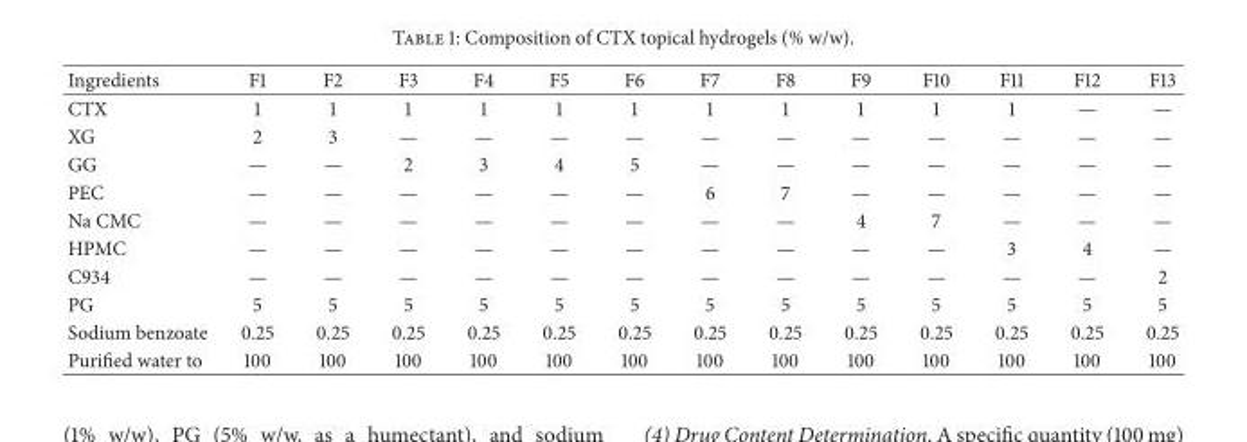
<table><thead><tr><td>Ingredients</td><td>F1</td><td>F2</td><td>F3</td><td>F4</td><td>F5</td><td>F6</td><td>F7</td><td>F8</td><td>F9</td><td>F10</td><td>F11</td><td>F12</td><td>F13</td></tr></thead><tbody><tr><td>CTX</td><td>1</td><td>1</td><td>1</td><td>1</td><td>1</td><td>1</td><td>1</td><td>1</td><td>1</td><td>1</td><td>1</td><td>—</td><td>—</td></tr><tr><td>XG</td><td>2</td><td>3</td><td>—</td><td>—</td><td>—</td><td>—</td><td>—</td><td>—</td><td>—</td><td>—</td><td>—</td><td>—</td><td>—</td></tr><tr><td>GG</td><td>—</td><td>—</td><td>2</td><td>3</td><td>4</td><td>5</td><td>—</td><td>—</td><td>—</td><td>—</td><td>—</td><td>—</td><td>—</td></tr><tr><td>PEC</td><td>—</td><td>—</td><td>—</td><td>—</td><td>—</td><td>—</td><td>6</td><td>7</td><td>—</td><td>—</td><td>—</td><td>—</td><td>—</td></tr><tr><td>Na CMC</td><td>—</td><td>—</td><td>—</td><td>—</td><td>—</td><td>—</td><td>—</td><td>—</td><td>4</td><td>7</td><td>—</td><td>—</td><td>—</td></tr><tr><td>HPMC</td><td>—</td><td>—</td><td>—</td><td>—</td><td>—</td><td>—</td><td>—</td><td>—</td><td>—</td><td>—</td><td>3</td><td>4</td><td>—</td></tr><tr><td>C934</td><td>—</td><td>—</td><td>—</td><td>—</td><td>—</td><td>—</td><td>—</td><td>—</td><td>—</td><td>—</td><td>—</td><td>—</td><td>2</td></tr><tr><td>PG</td><td>5</td><td>5</td><td>5</td><td>5</td><td>5</td><td>5</td><td>5</td><td>5</td><td>5</td><td>5</td><td>5</td><td>5</td><td>5</td></tr><tr><td>Sodium benzoate</td><td>0.25</td><td>0.25</td><td>0.25</td><td>0.25</td><td>0.25</td><td>0.25</td><td>0.25</td><td>0.25</td><td>0.25</td><td>0.25</td><td>0.25</td><td>0.25</td><td>0.25</td></tr><tr><td>Purified water to</td><td>100</td><td>100</td><td>100</td><td>100</td><td>100</td><td>100</td><td>100</td><td>100</td><td>100</td><td>100</td><td>100</td><td>100</td><td>100</td></tr></tbody></table>